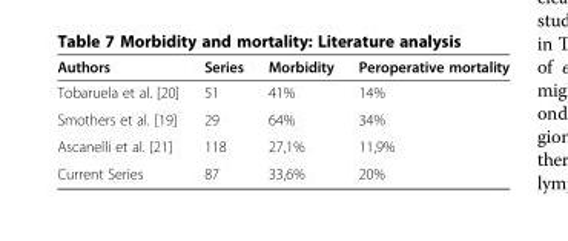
<table><thead><tr><td>Authors</td><td>Series</td><td>Morbidity</td><td>Peroperative mortality</td></tr></thead><tbody><tr><td>Tobaruela et al. [20]</td><td>51</td><td>41%</td><td>14%</td></tr><tr><td>Smothers et al. [19]</td><td>29</td><td>64%</td><td>34%</td></tr><tr><td>Ascanelli et al. [21]</td><td>118</td><td>27,1%</td><td>11,9%</td></tr><tr><td>Current Series</td><td>87</td><td>33,6%</td><td>20%</td></tr></tbody></table>